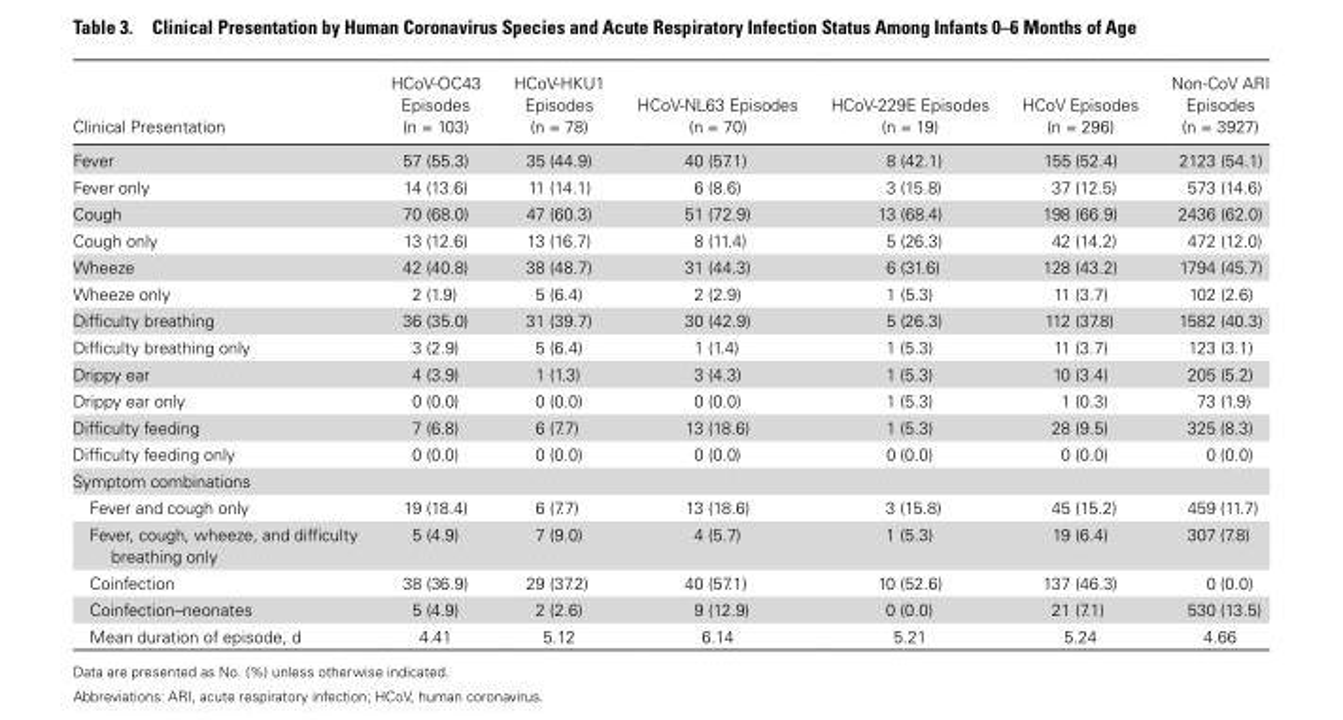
<table><thead><tr><td>Clinical Presentation</td><td>HCoV-OC43 Episodes (n = 103)</td><td>HCoV-HKU1 Episodes (n = 78)</td><td>HCoV-NL63 Episodes (n = 70)</td><td>HCoV-229E Episodes (n = 19)</td><td>HCoV Episodes (n = 296)</td><td>Non-CoV ARI Episodes (n = 3927)</td></tr></thead><tbody><tr><td>Fever</td><td>57 (55.3)</td><td>35 (44.9)</td><td>40 (57.1)</td><td>8 (42.1)</td><td>155 (52.4)</td><td>2123 (54.1)</td></tr><tr><td>Fever only</td><td>14 (13.6)</td><td>11 (14.1)</td><td>6 (8.6)</td><td>3 (15.8)</td><td>37 (12.5)</td><td>573 (14.6)</td></tr><tr><td>Cough</td><td>70 (68.0)</td><td>47 (60.3)</td><td>51 (72.9)</td><td>13 (68.4)</td><td>198 (66.9)</td><td>2436 (62.0)</td></tr><tr><td>Cough only</td><td>13 (12.6)</td><td>13 (16.7)</td><td>8 (11.4)</td><td>5 (26.3)</td><td>42 (14.2)</td><td>472 (12.0)</td></tr><tr><td>Wheeze</td><td>42 (40.8)</td><td>38 (48.7)</td><td>31 (44.3)</td><td>6 (31.6)</td><td>128 (43.2)</td><td>1794 (45.7)</td></tr><tr><td>Wheeze only</td><td>2 (1.9)</td><td>5 (6.4)</td><td>2 (2.9)</td><td>1 (5.3)</td><td>11 (3.7)</td><td>102 (2.6)</td></tr><tr><td>Difficulty breathing</td><td>36 (35.0)</td><td>31 (39.7)</td><td>30 (42.9)</td><td>5 (26.3)</td><td>112 (37.8)</td><td>1582 (40.3)</td></tr><tr><td>Difficulty breathing only</td><td>3 (2.9)</td><td>5 (6.4)</td><td>1 (1.4)</td><td>1 (5.3)</td><td>11 (3.7)</td><td>123 (3.1)</td></tr><tr><td>Drippy ear</td><td>4 (3.9)</td><td>1 (1.3)</td><td>3 (4.3)</td><td>1 (5.3)</td><td>10 (3.4)</td><td>205 (5.2)</td></tr><tr><td>Drippy ear only</td><td>0 (0.0)</td><td>0 (0.0)</td><td>0 (0.0)</td><td>1 (5.3)</td><td>1 (0.3)</td><td>73 (1.9)</td></tr><tr><td>Difficulty feeding</td><td>7 (6.8)</td><td>6 (7.7)</td><td>13 (18.6)</td><td>1 (5.3)</td><td>28 (9.5)</td><td>325 (8.3)</td></tr><tr><td>Difficulty feeding only</td><td>0 (0.0)</td><td>0 (0.0)</td><td>0 (0.0)</td><td>0 (0.0)</td><td>0 (0.0)</td><td>0 (0.0)</td></tr><tr><td colspan="7">Symptom combinations</td></tr><tr><td>Fever and cough only</td><td>19 (18.4)</td><td>6 (7.7)</td><td>13 (18.6)</td><td>3 (15.8)</td><td>45 (15.2)</td><td>459 (11.7)</td></tr><tr><td>Fever, cough, wheeze, and difficulty breathing only</td><td>5 (4.9)</td><td>7 (9.0)</td><td>4 (5.7)</td><td>1 (5.3)</td><td>19 (6.4)</td><td>307 (7.8)</td></tr><tr><td>Coinfection</td><td>38 (36.9)</td><td>29 (37.2)</td><td>40 (57.1)</td><td>10 (52.6)</td><td>137 (46.3)</td><td>0 (0.0)</td></tr><tr><td>Coinfection–neonates</td><td>5 (4.9)</td><td>2 (2.6)</td><td>9 (12.9)</td><td>0 (0.0)</td><td>21 (7.1)</td><td>530 (13.5)</td></tr><tr><td>Mean duration of episode, d</td><td>4.41</td><td>5.12</td><td>6.14</td><td>5.21</td><td>5.24</td><td>4.66</td></tr></tbody></table>